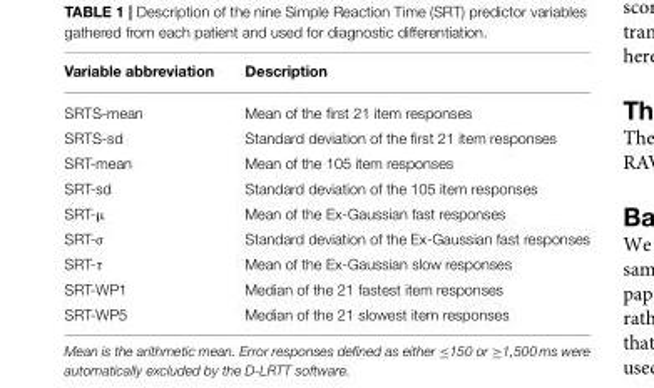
<table><thead><tr><td>Variable abbreviation</td><td>Description</td></tr></thead><tbody><tr><td>SRTS-mean</td><td>Mean of the first 21 item responses</td></tr><tr><td>SRTS-sd</td><td>Standard deviation of the first 21 item responses</td></tr><tr><td>SRT-mean</td><td>Mean of the 105 item responses</td></tr><tr><td>SRT-sd</td><td>Standard deviation of the 105 item responses</td></tr><tr><td>SRT-µ</td><td>Mean of the Ex-Gaussian fast responses</td></tr><tr><td>SRT-σ</td><td>Standard deviation of the Ex-Gaussian fast responses</td></tr><tr><td>SRT-τ</td><td>Mean of the Ex-Gaussian slow responses</td></tr><tr><td>SRT-WP1</td><td>Median of the 21 fastest item responses</td></tr><tr><td>SRT-WP5</td><td>Median of the 21 slowest item responses</td></tr></tbody></table>